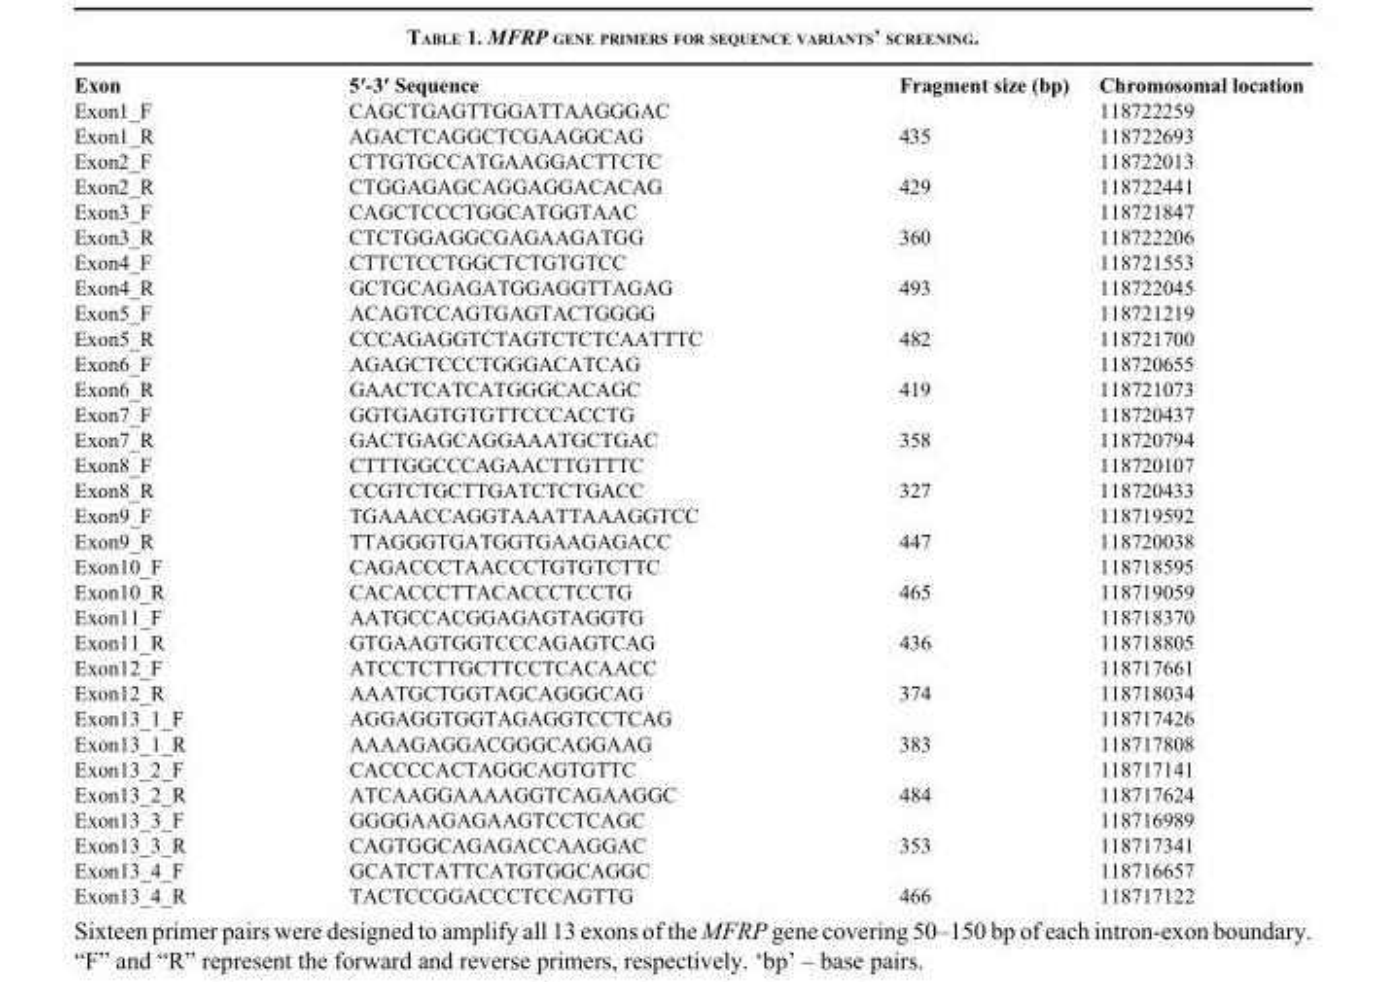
<table><thead><tr><td>Exon</td><td>5′-3′ Sequence</td><td>Fragment size (bp)</td><td>Chromosomal location</td></tr></thead><tbody><tr><td>Exon1_F</td><td>CAGCTGAGTTGGATTAAGGGAC</td><td></td><td>118722259</td></tr><tr><td>Exon1_R</td><td>AGACTCAGGCTCGAAGGCAG</td><td>435</td><td>118722693</td></tr><tr><td>Exon2_F</td><td>CTTGTGCCATGAAGGACTTCTC</td><td></td><td>118722013</td></tr><tr><td>Exon2_R</td><td>CTGGAGAGCAGGAGGACACAG</td><td>429</td><td>118722441</td></tr><tr><td>Exon3_F</td><td>CAGCTCCCTGGCATGGTAAC</td><td></td><td>118721847</td></tr><tr><td>Exon3_R</td><td>CTCTGGAGGCGAGAAGATGG</td><td>360</td><td>118722206</td></tr><tr><td>Exon4_F</td><td>CTTCTCCTGGCTCTGTGTCC</td><td></td><td>118721553</td></tr><tr><td>Exon4_R</td><td>GCTGCAGAGATGGAGGTTAGAG</td><td>493</td><td>118722045</td></tr><tr><td>Exon5_F</td><td>ACAGTCCAGTGAGTACTGGGG</td><td></td><td>118721219</td></tr><tr><td>Exon5_R</td><td>CCCAGAGGTCTAGTCTCTCAATTTC</td><td>482</td><td>118721700</td></tr><tr><td>Exon6_F</td><td>AGAGCTCCCTGGGACATCAG</td><td></td><td>118720655</td></tr><tr><td>Exon6_R</td><td>GAACTCATCATGGGCACAGC</td><td>419</td><td>118721073</td></tr><tr><td>Exon7_F</td><td>GGTGAGTGTGTTCCCACCTG</td><td></td><td>118720437</td></tr><tr><td>Exon7_R</td><td>GACTGAGCAGGAAATGCTGAC</td><td>358</td><td>118720794</td></tr><tr><td>Exon8_F</td><td>CTTTGGCCCAGAACTTGTTTC</td><td></td><td>118720107</td></tr><tr><td>Exon8_R</td><td>CCGTCTGCTTGATCTCTGACC</td><td>327</td><td>118720433</td></tr><tr><td>Exon9_F</td><td>TGAAACCAGGTAAATTAAAGGTCC</td><td></td><td>118719592</td></tr><tr><td>Exon9_R</td><td>TTAGGGTGATGGTGAAGAGACC</td><td>447</td><td>118720038</td></tr><tr><td>Exon10_F</td><td>CAGACCCTAACCCTGTGTCTTC</td><td></td><td>118718595</td></tr><tr><td>Exon10_R</td><td>CACACCCTTACACCCTCCTG</td><td>465</td><td>118719059</td></tr><tr><td>Exon11_F</td><td>AATGCCACGGAGAGTAGGTG</td><td></td><td>118718370</td></tr><tr><td>Exon11_R</td><td>GTGAAGTGGTCCCAGAGTCAG</td><td>436</td><td>118718805</td></tr><tr><td>Exon12_F</td><td>ATCCTCTTGCTTCCTCACAACC</td><td></td><td>118717661</td></tr><tr><td>Exon12_R</td><td>AAATGCTGGTAGCAGGGCAG</td><td>374</td><td>118718034</td></tr><tr><td>Exon13_1_F</td><td>AGGAGGTGGTAGAGGTCCTCAG</td><td></td><td>118717426</td></tr><tr><td>Exon13_1_R</td><td>AAAAGAGGACGGGCAGGAAG</td><td>383</td><td>118717808</td></tr><tr><td>Exon13_2_F</td><td>CACCCCACTAGGCAGTGTTC</td><td></td><td>118717141</td></tr><tr><td>Exon13_2_R</td><td>ATCAAGGAAAAGGTCAGAAGGC</td><td>484</td><td>118717624</td></tr><tr><td>Exon13_3_F</td><td>GGGGAAGAGAAGTCCTCAGC</td><td></td><td>118716989</td></tr><tr><td>Exon13_3_R</td><td>CAGTGGCAGAGACCAAGGAC</td><td>353</td><td>118717341</td></tr><tr><td>Exon13_4_F</td><td>GCATCTATTCATGTGGCAGGC</td><td></td><td>118716657</td></tr><tr><td>Exon13_4_R</td><td>TACTCCGGACCCTCCAGTTG</td><td>466</td><td>118717122</td></tr></tbody></table>